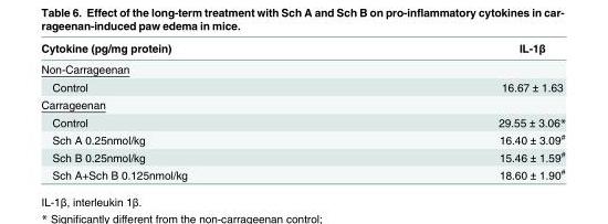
<table><thead><tr><td>Cytokine (pg/mg protein)</td><td>IL-1β</td></tr></thead><tbody><tr><td colspan="2">Non-Carrageenan</td></tr><tr><td>Control</td><td>16.67 ± 1.63</td></tr><tr><td colspan="2">Carrageenan</td></tr><tr><td>Control</td><td>29.55 ± 3.06*</td></tr><tr><td>Sch A 0.25nmol/kg</td><td>16.40 ± 3.09<sup>#</sup></td></tr><tr><td>Sch B 0.25nmol/kg</td><td>15.46 ± 1.59<sup>#</sup></td></tr><tr><td>Sch A+Sch B 0.125nmol/kg</td><td>18.60 ± 1.90<sup>#</sup></td></tr></tbody></table>